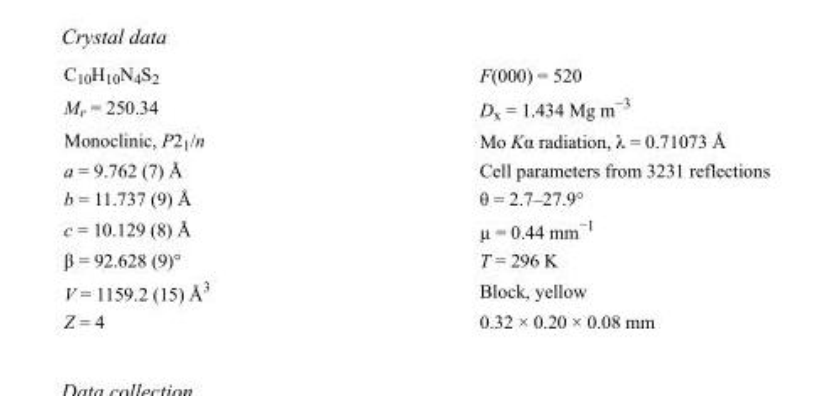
<table><tbody><tr><td>C<sub>10</sub>H<sub>10</sub>N<sub>4</sub>S<sub>2</sub></td><td>F(000) = 520</td></tr><tr><td>M<sub>r</sub> = 250.34</td><td>D<sub>x</sub> = 1.434 Mg m<sup>−3</sup></td></tr><tr><td>Monoclinic, P2<sub>1</sub>/n</td><td>Mo Kα radiation, λ = 0.71073 Å</td></tr><tr><td>a = 9.762 (7) Å</td><td>Cell parameters from 3231 reflections</td></tr><tr><td>b = 11.737 (9) Å</td><td>θ = 2.7–27.9°</td></tr><tr><td>c = 10.129 (8) Å</td><td>µ = 0.44 mm<sup>−1</sup></td></tr><tr><td>β = 92.628 (9)°</td><td>T = 296 K</td></tr><tr><td>V = 1159.2 (15) Å<sup>3</sup></td><td>Block, yellow</td></tr><tr><td>Z = 4</td><td>0.32 × 0.20 × 0.08 mm</td></tr></tbody></table>